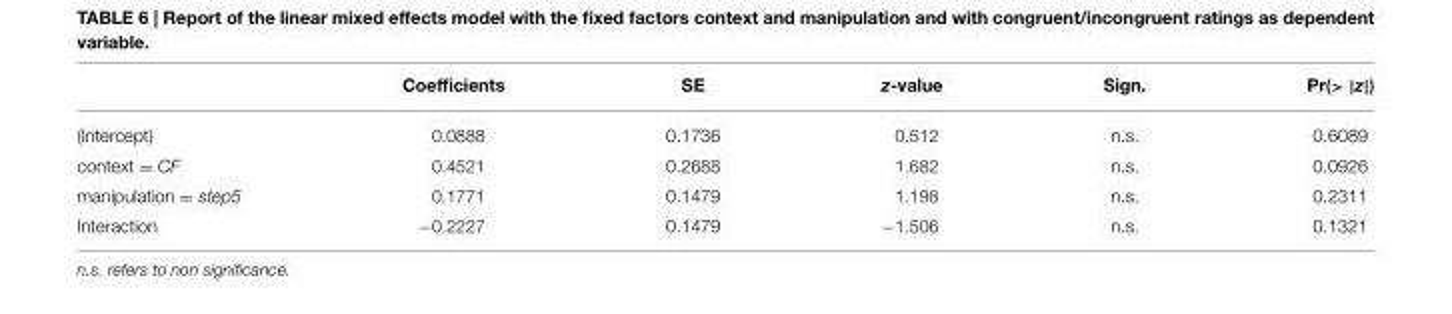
<table><thead><tr><td></td><td>Coefficients</td><td>SE</td><td>z-value</td><td>Sign.</td><td>Pr(&gt; |z|)</td></tr></thead><tbody><tr><td>(Intercept)</td><td>0.0888</td><td>0.1736</td><td>0.512</td><td>n.s.</td><td>0.6089</td></tr><tr><td>context = CF</td><td>0.4521</td><td>0.2688</td><td>1.682</td><td>n.s.</td><td>0.0926</td></tr><tr><td>manipulation = step5</td><td>0.1771</td><td>0.1479</td><td>1.198</td><td>n.s.</td><td>0.2311</td></tr><tr><td>Interaction</td><td>−0.2227</td><td>0.1479</td><td>−1.506</td><td>n.s.</td><td>0.1321</td></tr></tbody></table>